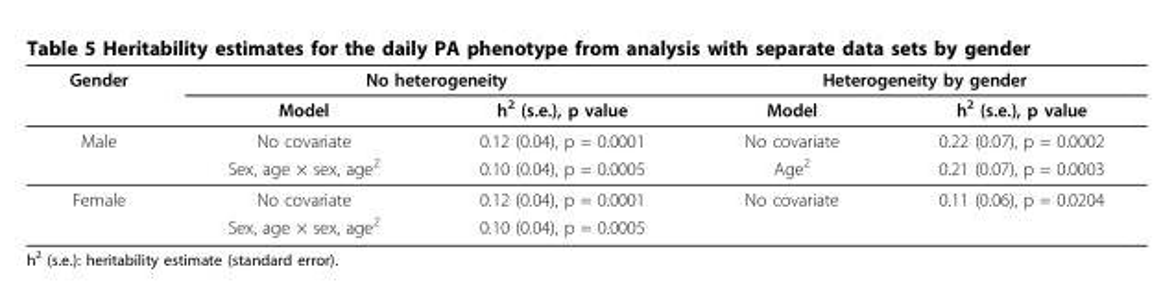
<table><thead><tr><td rowspan="2">Gender</td><td colspan="2">No heterogeneity</td><td colspan="2">Heterogeneity by gender</td></tr><tr><td>Model</td><td>h<sup>2</sup> (s.e.), p value</td><td>Model</td><td>h<sup>2</sup> (s.e.), p value</td></tr></thead><tbody><tr><td rowspan="2">Male</td><td>No covariate</td><td>0.12 (0.04), p = 0.0001</td><td>No covariate</td><td>0.22 (0.07), p = 0.0002</td></tr><tr><td>Sex, age × sex, age<sup>2</sup></td><td>0.10 (0.04), p = 0.0005</td><td>Age<sup>2</sup></td><td>0.21 (0.07), p = 0.0003</td></tr><tr><td rowspan="2">Female</td><td>No covariate</td><td>0.12 (0.04), p = 0.0001</td><td>No covariate</td><td>0.11 (0.06), p = 0.0204</td></tr><tr><td>Sex, age × sex, age<sup>2</sup></td><td>0.10 (0.04), p = 0.0005</td><td></td><td></td></tr></tbody></table>